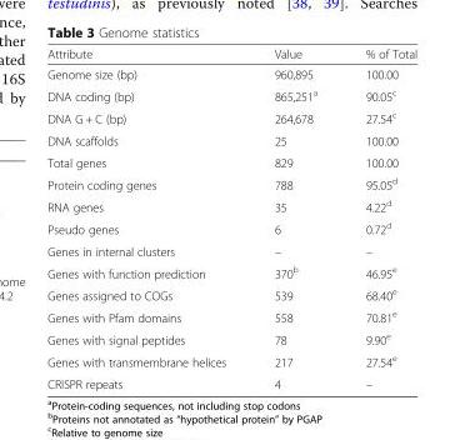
<table><thead><tr><td>Attribute</td><td>Value</td><td>% of Total</td></tr></thead><tbody><tr><td>Genome size (bp)</td><td>960,895</td><td>100.00</td></tr><tr><td>DNA coding (bp)</td><td>865,251<sup>a</sup></td><td>90.05<sup>c</sup></td></tr><tr><td>DNA G + C (bp)</td><td>264,678</td><td>27.54<sup>c</sup></td></tr><tr><td>DNA scaffolds</td><td>25</td><td>100.00</td></tr><tr><td>Total genes</td><td>829</td><td>100.00</td></tr><tr><td>Protein coding genes</td><td>788</td><td>95.05<sup>d</sup></td></tr><tr><td>RNA genes</td><td>35</td><td>4.22<sup>d</sup></td></tr><tr><td>Pseudo genes</td><td>6</td><td>0.72<sup>d</sup></td></tr><tr><td>Genes in internal clusters</td><td>–</td><td>–</td></tr><tr><td>Genes with function prediction</td><td>370<sup>b</sup></td><td>46.95<sup>e</sup></td></tr><tr><td>Genes assigned to COGs</td><td>539</td><td>68.40<sup>e</sup></td></tr><tr><td>Genes with Pfam domains</td><td>558</td><td>70.81<sup>e</sup></td></tr><tr><td>Genes with signal peptides</td><td>78</td><td>9.90<sup>e</sup></td></tr><tr><td>Genes with transmembrane helices</td><td>217</td><td>27.54<sup>e</sup></td></tr><tr><td>CRISPR repeats</td><td>4</td><td>–</td></tr></tbody></table>